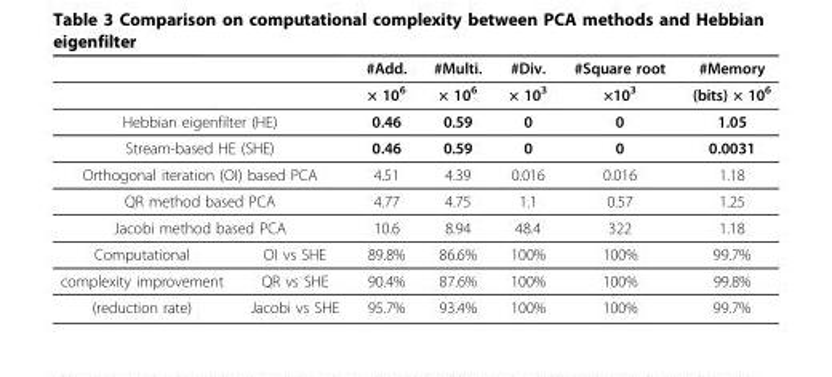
<table><thead><tr><td></td><td></td><td>#Add.</td><td>#Multi.</td><td>#Div.</td><td>#Square root</td><td>#Memory</td></tr></thead><tbody><tr><td></td><td></td><td>× 10<sup>6</sup></td><td>× 10<sup>6</sup></td><td>× 10<sup>3</sup></td><td>×10<sup>3</sup></td><td>(bits) × 10<sup>6</sup></td></tr><tr><td colspan="2">Hebbian eigenfilter (HE)</td><td>0.46</td><td>0.59</td><td>0</td><td>0</td><td>1.05</td></tr><tr><td colspan="2">Stream-based HE (SHE)</td><td>0.46</td><td>0.59</td><td>0</td><td>0</td><td>0.0031</td></tr><tr><td colspan="2">Orthogonal iteration (OI) based PCA</td><td>4.51</td><td>4.39</td><td>0.016</td><td>0.016</td><td>1.18</td></tr><tr><td colspan="2">QR method based PCA</td><td>4.77</td><td>4.75</td><td>1.1</td><td>0.57</td><td>1.25</td></tr><tr><td colspan="2">Jacobi method based PCA</td><td>10.6</td><td>8.94</td><td>48.4</td><td>322</td><td>1.18</td></tr><tr><td>Computational</td><td>OI vs SHE</td><td>89.8%</td><td>86.6%</td><td>100%</td><td>100%</td><td>99.7%</td></tr><tr><td>complexity improvement</td><td>QR vs SHE</td><td>90.4%</td><td>87.6%</td><td>100%</td><td>100%</td><td>99.8%</td></tr><tr><td>(reduction rate)</td><td>Jacobi vs SHE</td><td>95.7%</td><td>93.4%</td><td>100%</td><td>100%</td><td>99.7%</td></tr></tbody></table>